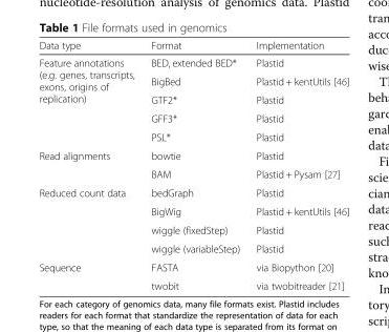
<table><thead><tr><td>Data type</td><td>Format</td><td>Implementation</td></tr></thead><tbody><tr><td rowspan="5">Feature annotations (e.g. genes, transcripts, exons, origins of replication)</td><td>BED, extended BED*</td><td>Plastid</td></tr><tr><td>BigBed</td><td>Plastid + kentUtils [46]</td></tr><tr><td>GTF2*</td><td>Plastid</td></tr><tr><td>GFF3*</td><td>Plastid</td></tr><tr><td>PSL*</td><td>Plastid</td></tr><tr><td rowspan="2">Read alignments</td><td>bowtie</td><td>Plastid</td></tr><tr><td>BAM</td><td>Plastid + Pysam [27]</td></tr><tr><td rowspan="4">Reduced count data</td><td>bedGraph</td><td>Plastid</td></tr><tr><td>BigWig</td><td>Plastid + kentUtils [46]</td></tr><tr><td>wiggle (fixedStep)</td><td>Plastid</td></tr><tr><td>wiggle (variableStep)</td><td>Plastid</td></tr><tr><td rowspan="2">Sequence</td><td>FASTA</td><td>via Biopython [20]</td></tr><tr><td>twobit</td><td>via twobitreader [21]</td></tr></tbody></table>